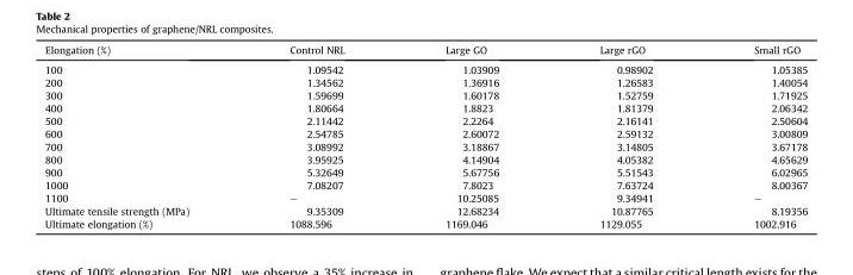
<table><thead><tr><td>Elongation (%)</td><td>Control NRL</td><td>Large GO</td><td>Large rGO</td><td>Small rGO</td></tr></thead><tbody><tr><td>100</td><td>1.09542</td><td>1.03909</td><td>0.98902</td><td>1.05385</td></tr><tr><td>200</td><td>1.34562</td><td>1.36916</td><td>1.26583</td><td>1.40054</td></tr><tr><td>300</td><td>1.59699</td><td>1.60178</td><td>1.52759</td><td>1.71925</td></tr><tr><td>400</td><td>1.80664</td><td>1.8823</td><td>1.81379</td><td>2.06342</td></tr><tr><td>500</td><td>2.11442</td><td>2.2264</td><td>2.16141</td><td>2.50604</td></tr><tr><td>600</td><td>2.54785</td><td>2.60072</td><td>2.59132</td><td>3.00809</td></tr><tr><td>700</td><td>3.08992</td><td>3.18867</td><td>3.14805</td><td>3.67178</td></tr><tr><td>800</td><td>3.95925</td><td>4.14904</td><td>4.05382</td><td>4.65629</td></tr><tr><td>900</td><td>5.32649</td><td>5.67756</td><td>5.51543</td><td>6.02965</td></tr><tr><td>1000</td><td>7.08207</td><td>7.8023</td><td>7.63724</td><td>8.00367</td></tr><tr><td>1100</td><td>–</td><td>10.25085</td><td>9.34941</td><td>–</td></tr><tr><td>Ultimate tensile strength (MPa)</td><td>9.35309</td><td>12.68234</td><td>10.87765</td><td>8.19356</td></tr><tr><td>Ultimate elongation (%)</td><td>1088.596</td><td>1169.046</td><td>1129.055</td><td>1002.916</td></tr></tbody></table>